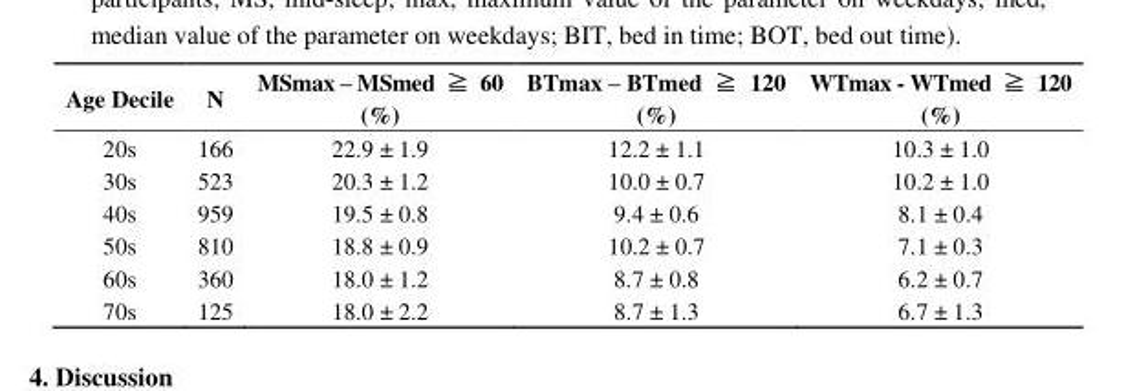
<table><thead><tr><td>Age Decile</td><td>N</td><td>MSmax – MSmed ≧ 60 (%)</td><td>BTmax – BTmed ≧ 120 (%)</td><td>WTmax - WTmed ≧ 120 (%)</td></tr></thead><tbody><tr><td>20s</td><td>166</td><td>22.9 ± 1.9</td><td>12.2 ± 1.1</td><td>10.3 ± 1.0</td></tr><tr><td>30s</td><td>523</td><td>20.3 ± 1.2</td><td>10.0 ± 0.7</td><td>10.2 ± 1.0</td></tr><tr><td>40s</td><td>959</td><td>19.5 ± 0.8</td><td>9.4 ± 0.6</td><td>8.1 ± 0.4</td></tr><tr><td>50s</td><td>810</td><td>18.8 ± 0.9</td><td>10.2 ± 0.7</td><td>7.1 ± 0.3</td></tr><tr><td>60s</td><td>360</td><td>18.0 ± 1.2</td><td>8.7 ± 0.8</td><td>6.2 ± 0.7</td></tr><tr><td>70s</td><td>125</td><td>18.0 ± 2.2</td><td>8.7 ± 1.3</td><td>6.7 ± 1.3</td></tr></tbody></table>